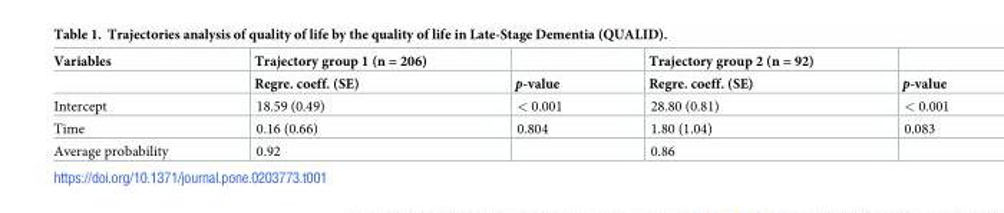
<table><thead><tr><td rowspan="2">Variables</td><td rowspan="2">Trajectory group 1 (n = 206) Regre. coeff. (SE)</td><td rowspan="2">p-value</td><td rowspan="2">Trajectory group 2 (n = 92) Regre. coeff. (SE)</td><td rowspan="2">p-value</td></tr><tr></tr></thead><tbody><tr><td>Intercept</td><td>18.59 (0.49)</td><td>&lt; 0.001</td><td>28.80 (0.81)</td><td>&lt; 0.001</td></tr><tr><td>Time</td><td>0.16 (0.66)</td><td>0.804</td><td>1.80 (1.04)</td><td>0.083</td></tr><tr><td>Average probability</td><td>0.92</td><td></td><td>0.86</td><td></td></tr></tbody></table>